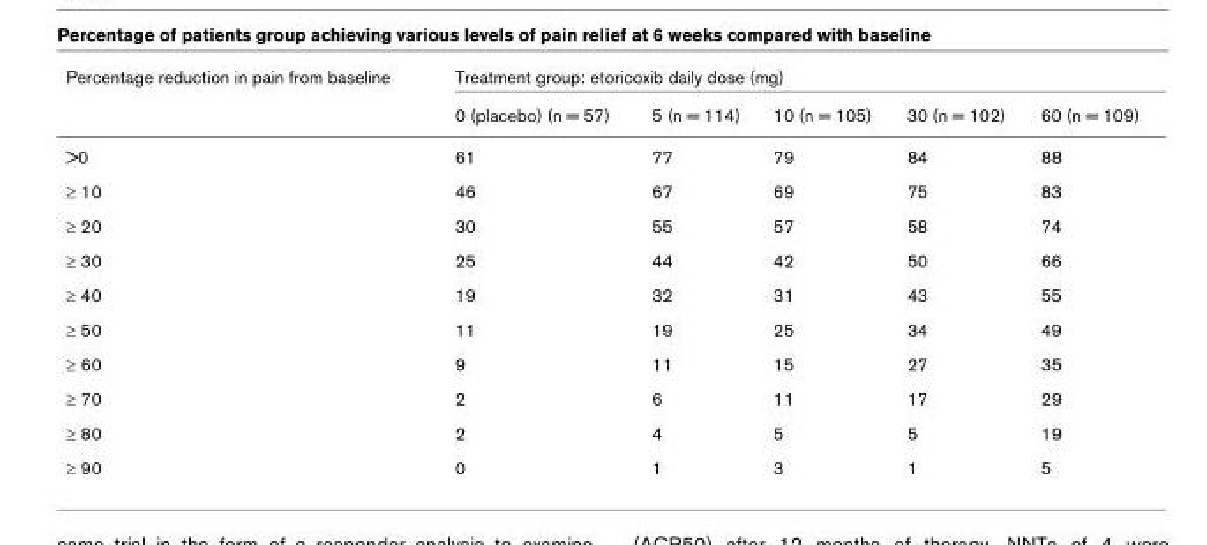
<table><thead><tr><td rowspan="2">Percentage reduction in pain from baseline</td><td colspan="5">Treatment group: etoricoxib daily dose (mg)</td></tr><tr><td>0 (placebo) (n = 57)</td><td>5 (n = 114)</td><td>10 (n = 105)</td><td>30 (n = 102)</td><td>60 (n = 109)</td></tr></thead><tbody><tr><td>&gt;0</td><td>61</td><td>77</td><td>79</td><td>84</td><td>88</td></tr><tr><td>≥ 10</td><td>46</td><td>67</td><td>69</td><td>75</td><td>83</td></tr><tr><td>≥ 20</td><td>30</td><td>55</td><td>57</td><td>58</td><td>74</td></tr><tr><td>≥ 30</td><td>25</td><td>44</td><td>42</td><td>50</td><td>66</td></tr><tr><td>≥ 40</td><td>19</td><td>32</td><td>31</td><td>43</td><td>55</td></tr><tr><td>≥ 50</td><td>11</td><td>19</td><td>25</td><td>34</td><td>49</td></tr><tr><td>≥ 60</td><td>9</td><td>11</td><td>15</td><td>27</td><td>35</td></tr><tr><td>≥ 70</td><td>2</td><td>6</td><td>11</td><td>17</td><td>29</td></tr><tr><td>≥ 80</td><td>2</td><td>4</td><td>5</td><td>5</td><td>19</td></tr><tr><td>≥ 90</td><td>0</td><td>1</td><td>3</td><td>1</td><td>5</td></tr></tbody></table>